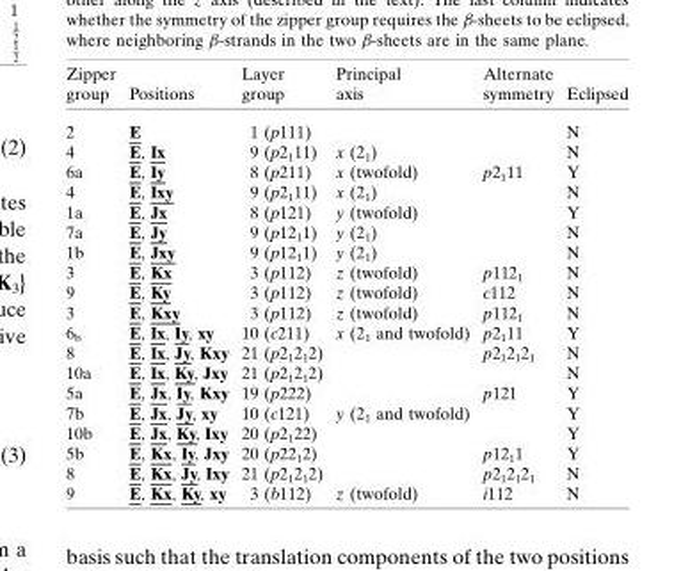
<table><thead><tr><td>Zipper group</td><td>Positions</td><td>Layer group</td><td>Principal axis</td><td>Alternate symmetry</td><td>Eclipsed</td></tr></thead><tbody><tr><td>2</td><td>E</td><td>1 (p111)</td><td></td><td></td><td>N</td></tr><tr><td>4</td><td>E, Ix</td><td>9 (p2<sub>1</sub>11)</td><td>x (2<sub>1</sub>)</td><td></td><td>N</td></tr><tr><td>6a</td><td>E, Iy</td><td>8 (p211)</td><td>x (twofold)</td><td>p2<sub>1</sub>11</td><td>Y</td></tr><tr><td>4</td><td>E, Ixy</td><td>9 (p2<sub>1</sub>11)</td><td>x (2<sub>1</sub>)</td><td></td><td>N</td></tr><tr><td>1a</td><td>E, Jx</td><td>8 (p121)</td><td>y (twofold)</td><td></td><td>Y</td></tr><tr><td>7a</td><td>E, Jy</td><td>9 (p12<sub>1</sub>1)</td><td>y (2<sub>1</sub>)</td><td></td><td>N</td></tr><tr><td>1b</td><td>E, Jxy</td><td>9 (p12<sub>1</sub>1)</td><td>y (2<sub>1</sub>)</td><td></td><td>N</td></tr><tr><td>3</td><td>E, Kx</td><td>3 (p112)</td><td>z (twofold)</td><td>p112<sub>1</sub></td><td>N</td></tr><tr><td>9</td><td>E, Ky</td><td>3 (p112)</td><td>z (twofold)</td><td>c112</td><td>N</td></tr><tr><td>3</td><td>E, Kxy</td><td>3 (p112)</td><td>z (twofold)</td><td>p112<sub>1</sub></td><td>N</td></tr><tr><td>6<sub>b</sub></td><td>E, Ix, Iy, xy</td><td>10 (c211)</td><td>x (2<sub>1</sub> and twofold)</td><td>p2<sub>1</sub>11</td><td>Y</td></tr><tr><td>8</td><td>E, Ix, Jy, Kxy</td><td>21 (p2<sub>1</sub>2<sub>1</sub>2)</td><td></td><td>p2<sub>1</sub>2<sub>1</sub>2<sub>1</sub></td><td>N</td></tr><tr><td>10a</td><td>E, Ix, Ky, Jxy</td><td>21 (p2<sub>1</sub>2<sub>1</sub>2)</td><td></td><td></td><td>N</td></tr><tr><td>5a</td><td>E, Jx, Iy, Kxy</td><td>19 (p222)</td><td></td><td>p121</td><td>Y</td></tr><tr><td>7b</td><td>E, Jx, Jy, xy</td><td>10 (c121)</td><td>y (2<sub>1</sub> and twofold)</td><td></td><td>Y</td></tr><tr><td>10b</td><td>E, Jx, Ky, Ixy</td><td>20 (p2<sub>1</sub>22)</td><td></td><td></td><td>Y</td></tr><tr><td>5b</td><td>E, Kx, Iy, Jxy</td><td>20 (p22<sub>1</sub>2)</td><td></td><td>p12<sub>1</sub>1</td><td>Y</td></tr><tr><td>8</td><td>E, Kx, Jy, Ixy</td><td>21 (p2<sub>1</sub>2<sub>1</sub>2)</td><td></td><td>p2<sub>1</sub>2<sub>1</sub>2<sub>1</sub></td><td>N</td></tr><tr><td>9</td><td>E, Kx, Ky, xy</td><td>3 (b112)</td><td>z (twofold)</td><td>i112</td><td>N</td></tr></tbody></table>